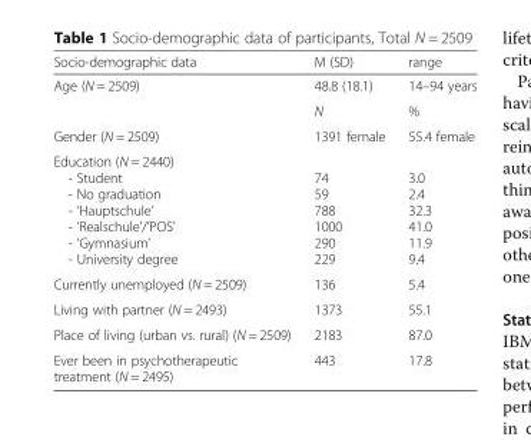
<table><thead><tr><td>Socio-demographic data</td><td>M (SD)</td><td>range</td></tr></thead><tbody><tr><td rowspan="2">Age (N = 2509)</td><td>48.8 (18.1)</td><td>14–94 years</td></tr><tr><td>N</td><td>%</td></tr><tr><td>Gender (N = 2509)</td><td>1391 female</td><td>55.4 female</td></tr><tr><td>Education (N = 2440) - Student - No graduation - ‘Hauptschule’ - ‘Realschule’/’POS’ - ‘Gymnasium’ - University degree</td><td>74 59 788 1000 290 229</td><td>3.0 2.4 32.3 41.0 11.9 9.4</td></tr><tr><td>Currently unemployed (N = 2509)</td><td>136</td><td>5.4</td></tr><tr><td>Living with partner (N = 2493)</td><td>1373</td><td>55.1</td></tr><tr><td>Place of living (urban vs. rural) (N = 2509)</td><td>2183</td><td>87.0</td></tr><tr><td>Ever been in psychotherapeutic treatment (N = 2495)</td><td>443</td><td>17.8</td></tr></tbody></table>